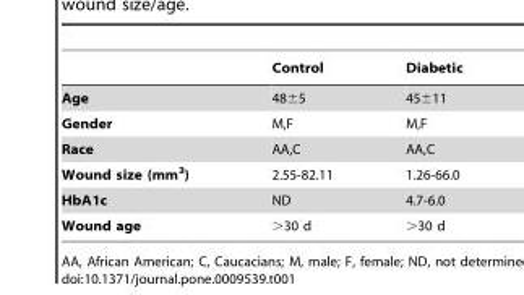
<table><thead><tr><td></td><td>Control</td><td>Diabetic</td></tr></thead><tbody><tr><td>Age</td><td>48±5</td><td>45±11</td></tr><tr><td>Gender</td><td>M,F</td><td>M,F</td></tr><tr><td>Race</td><td>AA,C</td><td>AA,C</td></tr><tr><td>Wound size (mm<sup>3</sup>)</td><td>2.55-82.11</td><td>1.26-66.0</td></tr><tr><td>HbA1c</td><td>ND</td><td>4.7-6.0</td></tr><tr><td>Wound age</td><td>&gt;30 d</td><td>&gt;30 d</td></tr></tbody></table>